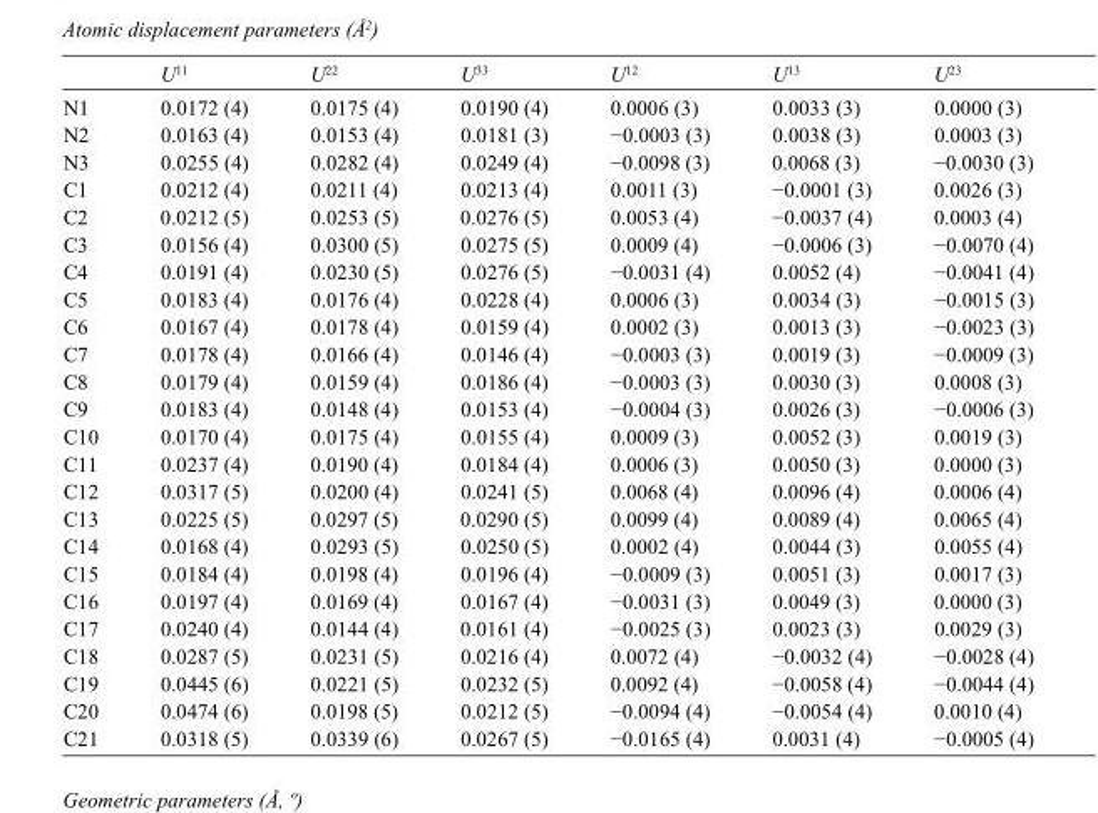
<table><thead><tr><td></td><td>U<sup>11</sup></td><td>U<sup>22</sup></td><td>U<sup>33</sup></td><td>U<sup>12</sup></td><td>U<sup>13</sup></td><td>U<sup>23</sup></td></tr></thead><tbody><tr><td>N1</td><td>0.0172 (4)</td><td>0.0175 (4)</td><td>0.0190 (4)</td><td>0.0006 (3)</td><td>0.0033 (3)</td><td>0.0000 (3)</td></tr><tr><td>N2</td><td>0.0163 (4)</td><td>0.0153 (4)</td><td>0.0181 (3)</td><td>−0.0003 (3)</td><td>0.0038 (3)</td><td>0.0003 (3)</td></tr><tr><td>N3</td><td>0.0255 (4)</td><td>0.0282 (4)</td><td>0.0249 (4)</td><td>−0.0098 (3)</td><td>0.0068 (3)</td><td>−0.0030 (3)</td></tr><tr><td>C1</td><td>0.0212 (4)</td><td>0.0211 (4)</td><td>0.0213 (4)</td><td>0.0011 (3)</td><td>−0.0001 (3)</td><td>0.0026 (3)</td></tr><tr><td>C2</td><td>0.0212 (5)</td><td>0.0253 (5)</td><td>0.0276 (5)</td><td>0.0053 (4)</td><td>−0.0037 (4)</td><td>0.0003 (4)</td></tr><tr><td>C3</td><td>0.0156 (4)</td><td>0.0300 (5)</td><td>0.0275 (5)</td><td>0.0009 (4)</td><td>−0.0006 (3)</td><td>−0.0070 (4)</td></tr><tr><td>C4</td><td>0.0191 (4)</td><td>0.0230 (5)</td><td>0.0276 (5)</td><td>−0.0031 (4)</td><td>0.0052 (4)</td><td>−0.0041 (4)</td></tr><tr><td>C5</td><td>0.0183 (4)</td><td>0.0176 (4)</td><td>0.0228 (4)</td><td>0.0006 (3)</td><td>0.0034 (3)</td><td>−0.0015 (3)</td></tr><tr><td>C6</td><td>0.0167 (4)</td><td>0.0178 (4)</td><td>0.0159 (4)</td><td>0.0002 (3)</td><td>0.0013 (3)</td><td>−0.0023 (3)</td></tr><tr><td>C7</td><td>0.0178 (4)</td><td>0.0166 (4)</td><td>0.0146 (4)</td><td>−0.0003 (3)</td><td>0.0019 (3)</td><td>−0.0009 (3)</td></tr><tr><td>C8</td><td>0.0179 (4)</td><td>0.0159 (4)</td><td>0.0186 (4)</td><td>−0.0003 (3)</td><td>0.0030 (3)</td><td>0.0008 (3)</td></tr><tr><td>C9</td><td>0.0183 (4)</td><td>0.0148 (4)</td><td>0.0153 (4)</td><td>−0.0004 (3)</td><td>0.0026 (3)</td><td>−0.0006 (3)</td></tr><tr><td>C10</td><td>0.0170 (4)</td><td>0.0175 (4)</td><td>0.0155 (4)</td><td>0.0009 (3)</td><td>0.0052 (3)</td><td>0.0019 (3)</td></tr><tr><td>C11</td><td>0.0237 (4)</td><td>0.0190 (4)</td><td>0.0184 (4)</td><td>0.0006 (3)</td><td>0.0050 (3)</td><td>0.0000 (3)</td></tr><tr><td>C12</td><td>0.0317 (5)</td><td>0.0200 (4)</td><td>0.0241 (5)</td><td>0.0068 (4)</td><td>0.0096 (4)</td><td>0.0006 (4)</td></tr><tr><td>C13</td><td>0.0225 (5)</td><td>0.0297 (5)</td><td>0.0290 (5)</td><td>0.0099 (4)</td><td>0.0089 (4)</td><td>0.0065 (4)</td></tr><tr><td>C14</td><td>0.0168 (4)</td><td>0.0293 (5)</td><td>0.0250 (5)</td><td>0.0002 (4)</td><td>0.0044 (3)</td><td>0.0055 (4)</td></tr><tr><td>C15</td><td>0.0184 (4)</td><td>0.0198 (4)</td><td>0.0196 (4)</td><td>−0.0009 (3)</td><td>0.0051 (3)</td><td>0.0017 (3)</td></tr><tr><td>C16</td><td>0.0197 (4)</td><td>0.0169 (4)</td><td>0.0167 (4)</td><td>−0.0031 (3)</td><td>0.0049 (3)</td><td>0.0000 (3)</td></tr><tr><td>C17</td><td>0.0240 (4)</td><td>0.0144 (4)</td><td>0.0161 (4)</td><td>−0.0025 (3)</td><td>0.0023 (3)</td><td>0.0029 (3)</td></tr><tr><td>C18</td><td>0.0287 (5)</td><td>0.0231 (5)</td><td>0.0216 (4)</td><td>0.0072 (4)</td><td>−0.0032 (4)</td><td>−0.0028 (4)</td></tr><tr><td>C19</td><td>0.0445 (6)</td><td>0.0221 (5)</td><td>0.0232 (5)</td><td>0.0092 (4)</td><td>−0.0058 (4)</td><td>−0.0044 (4)</td></tr><tr><td>C20</td><td>0.0474 (6)</td><td>0.0198 (5)</td><td>0.0212 (5)</td><td>−0.0094 (4)</td><td>−0.0054 (4)</td><td>0.0010 (4)</td></tr><tr><td>C21</td><td>0.0318 (5)</td><td>0.0339 (6)</td><td>0.0267 (5)</td><td>−0.0165 (4)</td><td>0.0031 (4)</td><td>−0.0005 (4)</td></tr></tbody></table>